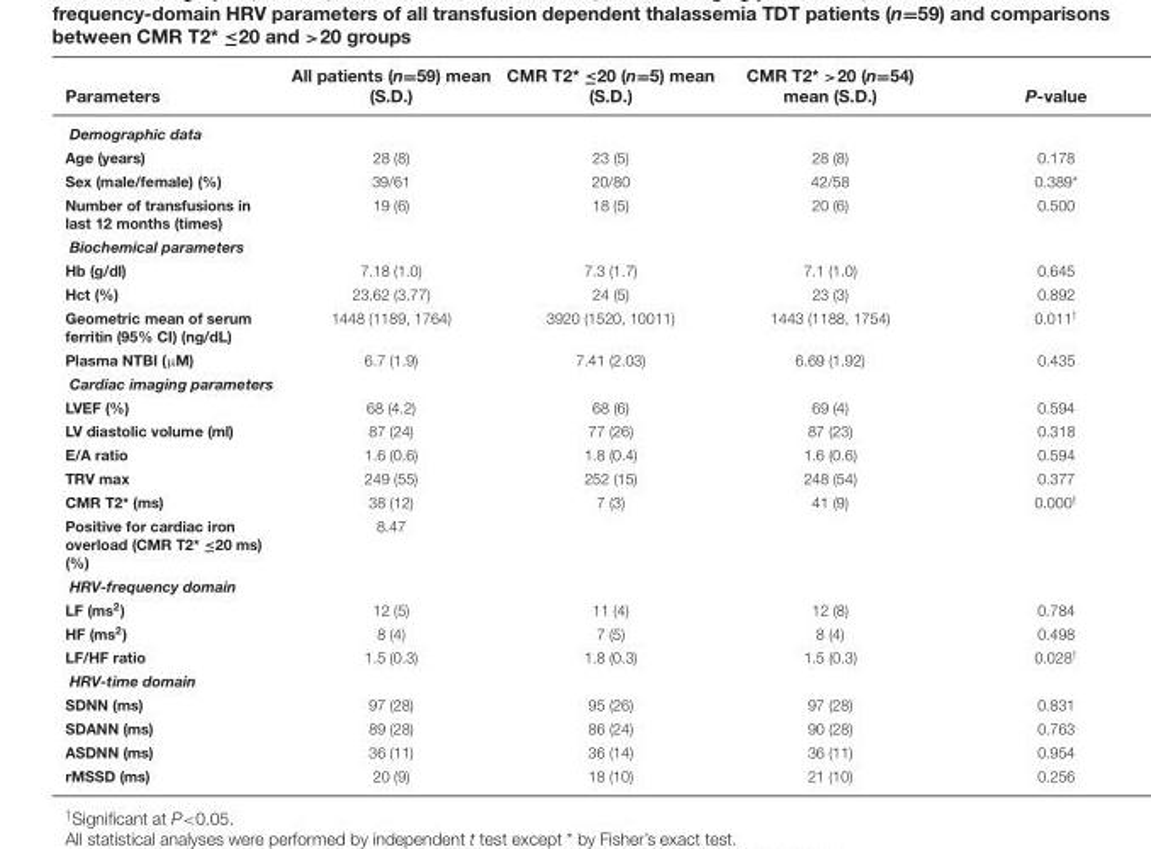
<table><thead><tr><td>Parameters</td><td>All patients (n=59) mean (S.D.)</td><td>CMR T2* ≤20 (n=5) mean (S.D.)</td><td>CMR T2* &gt;20 (n=54) mean (S.D.)</td><td>P-value</td></tr></thead><tbody><tr><td colspan="5">Demographic data</td></tr><tr><td>Age (years)</td><td>28 (8)</td><td>23 (5)</td><td>28 (8)</td><td>0.178</td></tr><tr><td>Sex (male/female) (%)</td><td>39/61</td><td>20/80</td><td>42/58</td><td>0.389*</td></tr><tr><td>Number of transfusions in last 12 months (times)</td><td>19 (6)</td><td>18 (5)</td><td>20 (6)</td><td>0.500</td></tr><tr><td colspan="5">Biochemical parameters</td></tr><tr><td>Hb (g/dl)</td><td>7.18 (1.0)</td><td>7.3 (1.7)</td><td>7.1 (1.0)</td><td>0.645</td></tr><tr><td>Hct (%)</td><td>23.62 (3.77)</td><td>24 (5)</td><td>23 (3)</td><td>0.892</td></tr><tr><td>Geometric mean of serum ferritin (95% CI) (ng/dL)</td><td>1448 (1189, 1764)</td><td>3920 (1520, 10011)</td><td>1443 (1188, 1754)</td><td>0.011<sup>†</sup></td></tr><tr><td>Plasma NTBI (μM)</td><td>6.7 (1.9)</td><td>7.41 (2.03)</td><td>6.69 (1.92)</td><td>0.435</td></tr><tr><td colspan="5">Cardiac imaging parameters</td></tr><tr><td>LVEF (%)</td><td>68 (4.2)</td><td>68 (6)</td><td>69 (4)</td><td>0.594</td></tr><tr><td>LV diastolic volume (ml)</td><td>87 (24)</td><td>77 (26)</td><td>87 (23)</td><td>0.318</td></tr><tr><td>E/A ratio</td><td>1.6 (0.6)</td><td>1.8 (0.4)</td><td>1.6 (0.6)</td><td>0.594</td></tr><tr><td>TRV max</td><td>249 (55)</td><td>252 (15)</td><td>248 (54)</td><td>0.377</td></tr><tr><td>CMR T2* (ms)</td><td>38 (12)</td><td>7 (3)</td><td>41 (9)</td><td>0.000<sup>†</sup></td></tr><tr><td>Positive for cardiac iron overload (CMR T2* ≤20 ms) (%)</td><td>8.47</td><td></td><td></td><td></td></tr><tr><td colspan="5">HRV-frequency domain</td></tr><tr><td>LF (ms<sup>2</sup>)</td><td>12 (5)</td><td>11 (4)</td><td>12 (8)</td><td>0.784</td></tr><tr><td>HF (ms<sup>2</sup>)</td><td>8 (4)</td><td>7 (5)</td><td>8 (4)</td><td>0.498</td></tr><tr><td>LF/HF ratio</td><td>1.5 (0.3)</td><td>1.8 (0.3)</td><td>1.5 (0.3)</td><td>0.028<sup>†</sup></td></tr><tr><td colspan="5">HRV-time domain</td></tr><tr><td>SDNN (ms)</td><td>97 (28)</td><td>95 (26)</td><td>97 (28)</td><td>0.831</td></tr><tr><td>SDANN (ms)</td><td>89 (28)</td><td>86 (24)</td><td>90 (28)</td><td>0.763</td></tr><tr><td>ASDNN (ms)</td><td>36 (11)</td><td>36 (14)</td><td>36 (11)</td><td>0.954</td></tr><tr><td>rMSSD (ms)</td><td>20 (9)</td><td>18 (10)</td><td>21 (10)</td><td>0.256</td></tr></tbody></table>